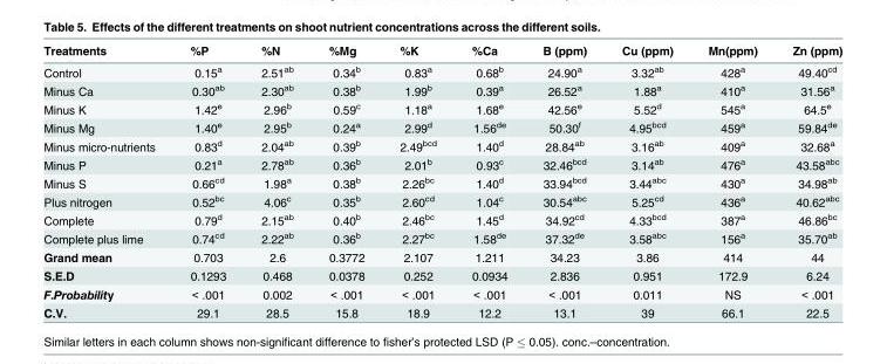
<table><thead><tr><td>Treatments</td><td>%P</td><td>%N</td><td>%Mg</td><td>%K</td><td>%Ca</td><td>B (ppm)</td><td>Cu (ppm)</td><td>Mn(ppm)</td><td>Zn (ppm)</td></tr></thead><tbody><tr><td>Control</td><td>0.15<sup>a</sup></td><td>2.51<sup>ab</sup></td><td>0.34<sup>b</sup></td><td>0.83<sup>a</sup></td><td>0.68<sup>b</sup></td><td>24.90<sup>a</sup></td><td>3.32<sup>ab</sup></td><td>428<sup>a</sup></td><td>49.40<sup>cd</sup></td></tr><tr><td>Minus Ca</td><td>0.30<sup>ab</sup></td><td>2.30<sup>ab</sup></td><td>0.38<sup>b</sup></td><td>1.99<sup>b</sup></td><td>0.39<sup>a</sup></td><td>26.52<sup>a</sup></td><td>1.88<sup>a</sup></td><td>410<sup>a</sup></td><td>31.56<sup>a</sup></td></tr><tr><td>Minus K</td><td>1.42<sup>e</sup></td><td>2.96<sup>b</sup></td><td>0.59<sup>c</sup></td><td>1.18<sup>a</sup></td><td>1.68<sup>e</sup></td><td>42.56<sup>e</sup></td><td>5.52<sup>d</sup></td><td>545<sup>a</sup></td><td>64.5<sup>e</sup></td></tr><tr><td>Minus Mg</td><td>1.40<sup>e</sup></td><td>2.95<sup>b</sup></td><td>0.24<sup>a</sup></td><td>2.99<sup>d</sup></td><td>1.56<sup>de</sup></td><td>50.30<sup>f</sup></td><td>4.95<sup>bcd</sup></td><td>459<sup>a</sup></td><td>59.84<sup>de</sup></td></tr><tr><td>Minus micro-nutrients</td><td>0.83<sup>d</sup></td><td>2.04<sup>ab</sup></td><td>0.39<sup>b</sup></td><td>2.49<sup>bcd</sup></td><td>1.40<sup>d</sup></td><td>28.84<sup>ab</sup></td><td>3.16<sup>ab</sup></td><td>409<sup>a</sup></td><td>32.68<sup>a</sup></td></tr><tr><td>Minus P</td><td>0.21<sup>a</sup></td><td>2.78<sup>ab</sup></td><td>0.36<sup>b</sup></td><td>2.01<sup>b</sup></td><td>0.93<sup>c</sup></td><td>32.46<sup>bcd</sup></td><td>3.14<sup>ab</sup></td><td>476<sup>a</sup></td><td>43.58<sup>abc</sup></td></tr><tr><td>Minus S</td><td>0.66<sup>cd</sup></td><td>1.98<sup>a</sup></td><td>0.38<sup>b</sup></td><td>2.26<sup>bc</sup></td><td>1.40<sup>d</sup></td><td>33.94<sup>bcd</sup></td><td>3.44<sup>abc</sup></td><td>430<sup>a</sup></td><td>34.98<sup>ab</sup></td></tr><tr><td>Plus nitrogen</td><td>0.52<sup>bc</sup></td><td>4.06<sup>c</sup></td><td>0.35<sup>b</sup></td><td>2.60<sup>cd</sup></td><td>1.04<sup>c</sup></td><td>30.54<sup>abc</sup></td><td>5.25<sup>cd</sup></td><td>436<sup>a</sup></td><td>40.62<sup>abc</sup></td></tr><tr><td>Complete</td><td>0.79<sup>d</sup></td><td>2.15<sup>ab</sup></td><td>0.40<sup>b</sup></td><td>2.46<sup>bc</sup></td><td>1.45<sup>d</sup></td><td>34.92<sup>cd</sup></td><td>4.33<sup>bcd</sup></td><td>387<sup>a</sup></td><td>46.86<sup>bc</sup></td></tr><tr><td>Complete plus lime</td><td>0.74<sup>cd</sup></td><td>2.22<sup>ab</sup></td><td>0.36<sup>b</sup></td><td>2.27<sup>bc</sup></td><td>1.58<sup>de</sup></td><td>37.32<sup>de</sup></td><td>3.58<sup>abc</sup></td><td>156<sup>a</sup></td><td>35.70<sup>ab</sup></td></tr><tr><td>Grand mean</td><td>0.703</td><td>2.6</td><td>0.3772</td><td>2.107</td><td>1.211</td><td>34.23</td><td>3.86</td><td>414</td><td>44</td></tr><tr><td>S.E.D</td><td>0.1293</td><td>0.468</td><td>0.0378</td><td>0.252</td><td>0.0934</td><td>2.836</td><td>0.951</td><td>172.9</td><td>6.24</td></tr><tr><td>F.Probability</td><td>&lt; .001</td><td>0.002</td><td>&lt; .001</td><td>&lt; .001</td><td>&lt; .001</td><td>&lt; .001</td><td>0.011</td><td>NS</td><td>&lt; .001</td></tr><tr><td>C.V.</td><td>29.1</td><td>28.5</td><td>15.8</td><td>18.9</td><td>12.2</td><td>13.1</td><td>39</td><td>66.1</td><td>22.5</td></tr></tbody></table>